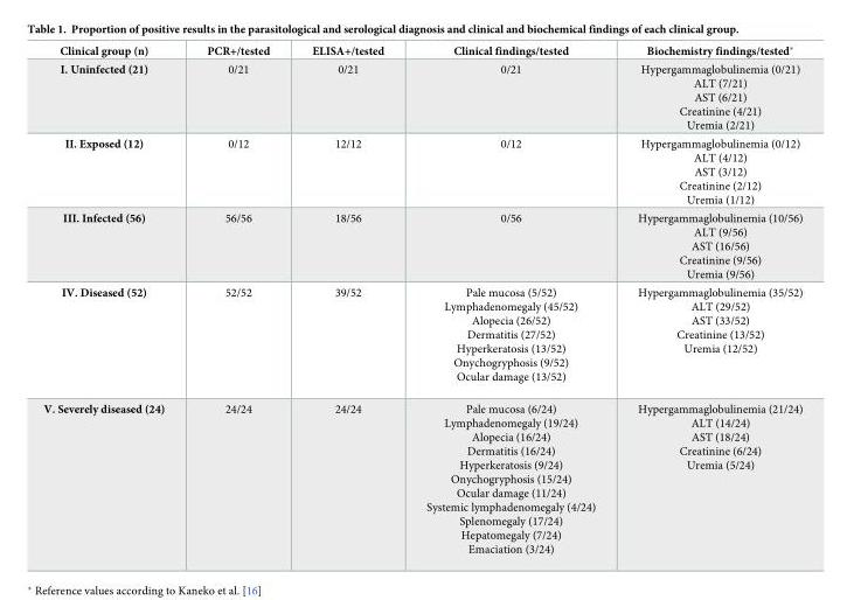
<table><thead><tr><td>Clinical group (n)</td><td>PCR+/tested</td><td>ELISA+/tested</td><td>Clinical findings/tested</td><td>Biochemistry findings/tested*</td></tr></thead><tbody><tr><td>I. Uninfected (21)</td><td>0/21</td><td>0/21</td><td>0/21</td><td>Hypergammaglobulinemia (0/21) ALT (7/21) AST (6/21) Creatinine (4/21) Uremia (2/21)</td></tr><tr><td>II. Exposed (12)</td><td>0/12</td><td>12/12</td><td>0/12</td><td>Hypergammaglobulinemia (0/12) ALT (4/12) AST (3/12) Creatinine (2/12) Uremia (1/12)</td></tr><tr><td>III. Infected (56)</td><td>56/56</td><td>18/56</td><td>0/56</td><td>Hypergammaglobulinemia (10/56) ALT (9/56) AST (16/56) Creatinine (9/56) Uremia (9/56)</td></tr><tr><td>IV. Diseased (52)</td><td>52/52</td><td>39/52</td><td>Pale mucosa (5/52) Lymphadenomegaly (45/52) Alopecia (26/52) Dermatitis (27/52) Hyperkeratosis (13/52) Onychogryphosis (9/52) Ocular damage (13/52)</td><td>Hypergammaglobulinemia (35/52) ALT (29/52) AST (33/52) Creatinine (13/52) Uremia (12/52)</td></tr><tr><td>V. Severely diseased (24)</td><td>24/24</td><td>24/24</td><td>Pale mucosa (6/24) Lymphadenomegaly (19/24) Alopecia (16/24) Dermatitis (16/24) Hyperkeratosis (9/24) Onychogryphosis (15/24) Ocular damage (11/24) Systemic lymphadenomegaly (4/24) Splenomegaly (17/24) Hepatomegaly (7/24) Emaciation (3/24)</td><td>Hypergammaglobulinemia (21/24) ALT (14/24) AST (18/24) Creatinine (6/24) Uremia (5/24)</td></tr></tbody></table>